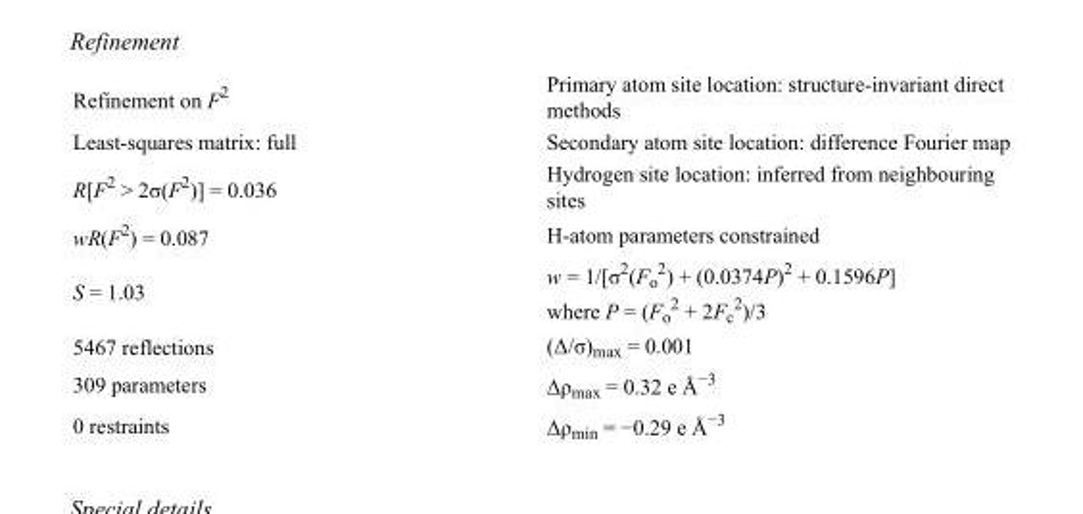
<table><tbody><tr><td>Refinement on F<sup>2</sup></td><td>Primary atom site location: structure-invariant direct methods</td></tr><tr><td>Least-squares matrix: full</td><td>Secondary atom site location: difference Fourier map</td></tr><tr><td>R[F<sup>2</sup> &gt; 2σ(F<sup>2</sup>)] = 0.036</td><td>Hydrogen site location: inferred from neighbouring sites</td></tr><tr><td>wR(F<sup>2</sup>) = 0.087</td><td>H-atom parameters constrained</td></tr><tr><td>S = 1.03</td><td>w = 1/[σ<sup>2</sup>(F<sub>o</sub> <sup>2</sup>) + (0.0374P)<sup>2</sup> + 0.1596P] where P = (F<sub>o</sub> <sup>2</sup> + 2F<sub>c</sub> <sup>2</sup>)/3</td></tr><tr><td>5467 reflections</td><td>(Δ/σ)<sub>max</sub> = 0.001</td></tr><tr><td>309 parameters</td><td>Δρ<sub>max</sub> = 0.32 e Å<sup>−3</sup></td></tr><tr><td>0 restraints</td><td>Δρ<sub>min</sub> = −0.29 e Å<sup>−3</sup></td></tr></tbody></table>